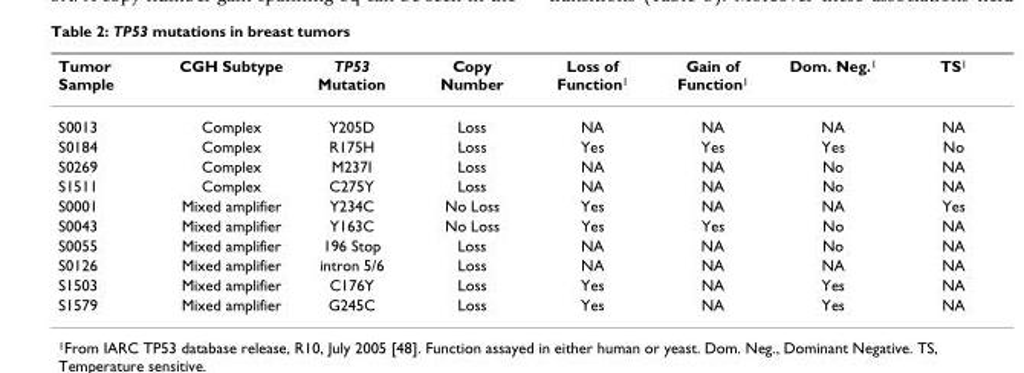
<table><thead><tr><td>Tumor Sample</td><td>CGH Subtype</td><td>TP53 Mutation</td><td>Copy Number</td><td>Loss of Function<sup>1</sup></td><td>Gain of Function<sup>1</sup></td><td>Dom. Neg.<sup>1</sup></td><td>TS<sup>1</sup></td></tr></thead><tbody><tr><td>S0013</td><td>Complex</td><td>Y205D</td><td>Loss</td><td>NA</td><td>NA</td><td>NA</td><td>NA</td></tr><tr><td>S0184</td><td>Complex</td><td>R175H</td><td>Loss</td><td>Yes</td><td>Yes</td><td>Yes</td><td>No</td></tr><tr><td>S0269</td><td>Complex</td><td>M237I</td><td>Loss</td><td>NA</td><td>NA</td><td>No</td><td>NA</td></tr><tr><td>S1511</td><td>Complex</td><td>C275Y</td><td>Loss</td><td>NA</td><td>NA</td><td>No</td><td>NA</td></tr><tr><td>S0001</td><td>Mixed amplifier</td><td>Y234C</td><td>No Loss</td><td>Yes</td><td>NA</td><td>NA</td><td>Yes</td></tr><tr><td>S0043</td><td>Mixed amplifier</td><td>Y163C</td><td>No Loss</td><td>Yes</td><td>Yes</td><td>No</td><td>NA</td></tr><tr><td>S0055</td><td>Mixed amplifier</td><td>196 Stop</td><td>Loss</td><td>NA</td><td>NA</td><td>No</td><td>NA</td></tr><tr><td>S0126</td><td>Mixed amplifier</td><td>intron 5/6</td><td>Loss</td><td>NA</td><td>NA</td><td>NA</td><td>NA</td></tr><tr><td>S1503</td><td>Mixed amplifier</td><td>C176Y</td><td>Loss</td><td>Yes</td><td>NA</td><td>Yes</td><td>NA</td></tr><tr><td>S1579</td><td>Mixed amplifier</td><td>G245C</td><td>Loss</td><td>Yes</td><td>NA</td><td>Yes</td><td>NA</td></tr></tbody></table>